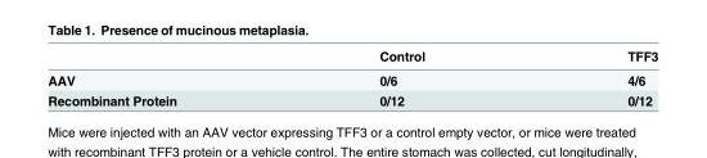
<table><thead><tr><td></td><td>Control</td><td>TFF3</td></tr></thead><tbody><tr><td>AAV</td><td>0/6</td><td>4/6</td></tr><tr><td>Recombinant Protein</td><td>0/12</td><td>0/12</td></tr></tbody></table>